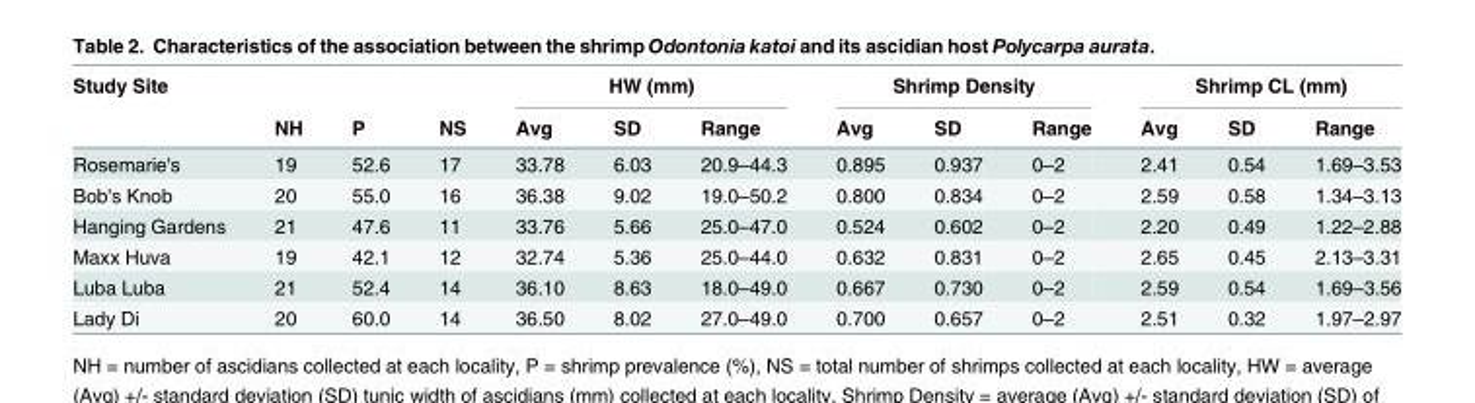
<table><thead><tr><td rowspan="2">Study Site</td><td rowspan="2">NH</td><td rowspan="2">P</td><td rowspan="2">NS</td><td colspan="3">HW (mm)</td><td colspan="3">Shrimp Density</td><td colspan="3">Shrimp CL (mm)</td></tr><tr><td>Avg</td><td>SD</td><td>Range</td><td>Avg</td><td>SD</td><td>Range</td><td>Avg</td><td>SD</td><td>Range</td></tr></thead><tbody><tr><td>Rosemarie&#x27;s</td><td>19</td><td>52.6</td><td>17</td><td>33.78</td><td>6.03</td><td>20.9–44.3</td><td>0.895</td><td>0.937</td><td>0–2</td><td>2.41</td><td>0.54</td><td>1.69–3.53</td></tr><tr><td>Bob&#x27;s Knob</td><td>20</td><td>55.0</td><td>16</td><td>36.38</td><td>9.02</td><td>19.0–50.2</td><td>0.800</td><td>0.834</td><td>0–2</td><td>2.59</td><td>0.58</td><td>1.34–3.13</td></tr><tr><td>Hanging Gardens</td><td>21</td><td>47.6</td><td>11</td><td>33.76</td><td>5.66</td><td>25.0–47.0</td><td>0.524</td><td>0.602</td><td>0–2</td><td>2.20</td><td>0.49</td><td>1.22–2.88</td></tr><tr><td>Maxx Huva</td><td>19</td><td>42.1</td><td>12</td><td>32.74</td><td>5.36</td><td>25.0–44.0</td><td>0.632</td><td>0.831</td><td>0–2</td><td>2.65</td><td>0.45</td><td>2.13–3.31</td></tr><tr><td>Luba Luba</td><td>21</td><td>52.4</td><td>14</td><td>36.10</td><td>8.63</td><td>18.0–49.0</td><td>0.667</td><td>0.730</td><td>0–2</td><td>2.59</td><td>0.54</td><td>1.69–3.56</td></tr><tr><td>Lady Di</td><td>20</td><td>60.0</td><td>14</td><td>36.50</td><td>8.02</td><td>27.0–49.0</td><td>0.700</td><td>0.657</td><td>0–2</td><td>2.51</td><td>0.32</td><td>1.97–2.97</td></tr></tbody></table>